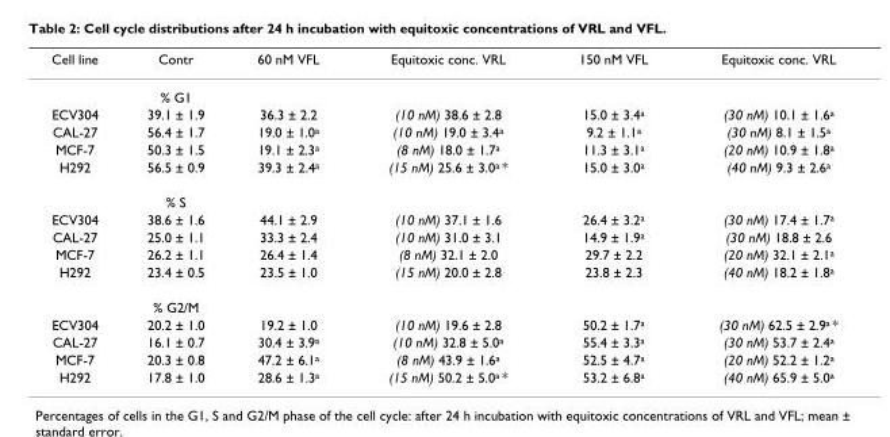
<table><thead><tr><td>Cell line</td><td>Contr</td><td>60 nM VFL</td><td>Equitoxic conc. VRL</td><td>150 nM VFL</td><td>Equitoxic conc. VRL</td></tr></thead><tbody><tr><td></td><td>% G1</td><td></td><td></td><td></td><td></td></tr><tr><td>ECV304</td><td>39.1 ± 1.9</td><td>36.3 ± 2.2</td><td>(10 nM) 38.6 ± 2.8</td><td>15.0 ± 3.4<sup>a</sup></td><td>(30 nM) 10.1 ± 1.6<sup>a</sup></td></tr><tr><td>CAL-27</td><td>56.4 ± 1.7</td><td>19.0 ± 1.0<sup>a</sup></td><td>(10 nM) 19.0 ± 3.4<sup>a</sup></td><td>9.2 ± 1.1<sup>a</sup></td><td>(30 nM) 8.1 ± 1.5<sup>a</sup></td></tr><tr><td>MCF-7</td><td>50.3 ± 1.5</td><td>19.1 ± 2.3<sup>a</sup></td><td>(8 nM) 18.0 ± 1.7<sup>a</sup></td><td>11.3 ± 3.1<sup>a</sup></td><td>(20 nM) 10.9 ± 1.8<sup>a</sup></td></tr><tr><td rowspan="2">H292</td><td>56.5 ± 0.9</td><td>39.3 ± 2.4<sup>a</sup></td><td>(15 nM) 25.6 ± 3.0<sup>a</sup> *</td><td>15.0 ± 3.0<sup>a</sup></td><td>(40 nM) 9.3 ± 2.6<sup>a</sup></td></tr><tr><td>% S</td><td></td><td></td><td></td><td></td></tr><tr><td>ECV304</td><td>38.6 ± 1.6</td><td>44.1 ± 2.9</td><td>(10 nM) 37.1 ± 1.6</td><td>26.4 ± 3.2<sup>a</sup></td><td>(30 nM) 17.4 ± 1.7<sup>a</sup></td></tr><tr><td>CAL-27</td><td>25.0 ± 1.1</td><td>33.3 ± 2.4</td><td>(10 nM) 31.0 ± 3.1</td><td>14.9 ± 1.9<sup>a</sup></td><td>(30 nM) 18.8 ± 2.6</td></tr><tr><td>MCF-7</td><td>26.2 ± 1.1</td><td>26.4 ± 1.4</td><td>(8 nM) 32.1 ± 2.0</td><td>29.7 ± 2.2</td><td>(20 nM) 32.1 ± 2.1<sup>a</sup></td></tr><tr><td rowspan="2">H292</td><td>23.4 ± 0.5</td><td>23.5 ± 1.0</td><td>(15 nM) 20.0 ± 2.8</td><td>23.8 ± 2.3</td><td>(40 nM) 18.2 ± 1.8<sup>a</sup></td></tr><tr><td>% G2/M</td><td></td><td></td><td></td><td></td></tr><tr><td>ECV304</td><td>20.2 ± 1.0</td><td>19.2 ± 1.0</td><td>(10 nM) 19.6 ± 2.8</td><td>50.2 ± 1.7<sup>a</sup></td><td>(30 nM) 62.5 ± 2.9<sup>a</sup> *</td></tr><tr><td>CAL-27</td><td>16.1 ± 0.7</td><td>30.4 ± 3.9<sup>a</sup></td><td>(10 nM) 32.8 ± 5.0<sup>a</sup></td><td>55.4 ± 3.3<sup>a</sup></td><td>(30 nM) 53.7 ± 2.4<sup>a</sup></td></tr><tr><td>MCF-7</td><td>20.3 ± 0.8</td><td>47.2 ± 6.1<sup>a</sup></td><td>(8 nM) 43.9 ± 1.6<sup>a</sup></td><td>52.5 ± 4.7<sup>a</sup></td><td>(20 nM) 52.2 ± 1.2<sup>a</sup></td></tr><tr><td>H292</td><td>17.8 ± 1.0</td><td>28.6 ± 1.3<sup>a</sup></td><td>(15 nM) 50.2 ± 5.0<sup>a</sup> *</td><td>53.2 ± 6.8<sup>a</sup></td><td>(40 nM) 65.9 ± 5.0<sup>a</sup></td></tr></tbody></table>